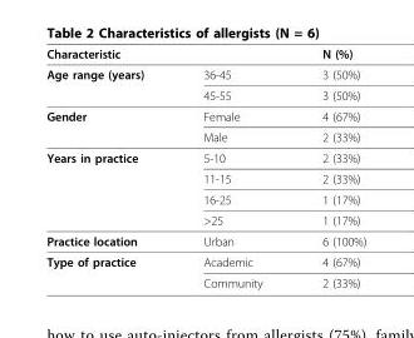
<table><thead><tr><td>Characteristic</td><td></td><td>N (%)</td></tr></thead><tbody><tr><td rowspan="2">Age range (years)</td><td>36-45</td><td>3 (50%)</td></tr><tr><td>45-55</td><td>3 (50%)</td></tr><tr><td rowspan="2">Gender</td><td>Female</td><td>4 (67%)</td></tr><tr><td>Male</td><td>2 (33%)</td></tr><tr><td rowspan="4">Years in practice</td><td>5-10</td><td>2 (33%)</td></tr><tr><td>11-15</td><td>2 (33%)</td></tr><tr><td>16-25</td><td>1 (17%)</td></tr><tr><td>&gt;25</td><td>1 (17%)</td></tr><tr><td>Practice location</td><td>Urban</td><td>6 (100%)</td></tr><tr><td rowspan="2">Type of practice</td><td>Academic</td><td>4 (67%)</td></tr><tr><td>Community</td><td>2 (33%)</td></tr></tbody></table>